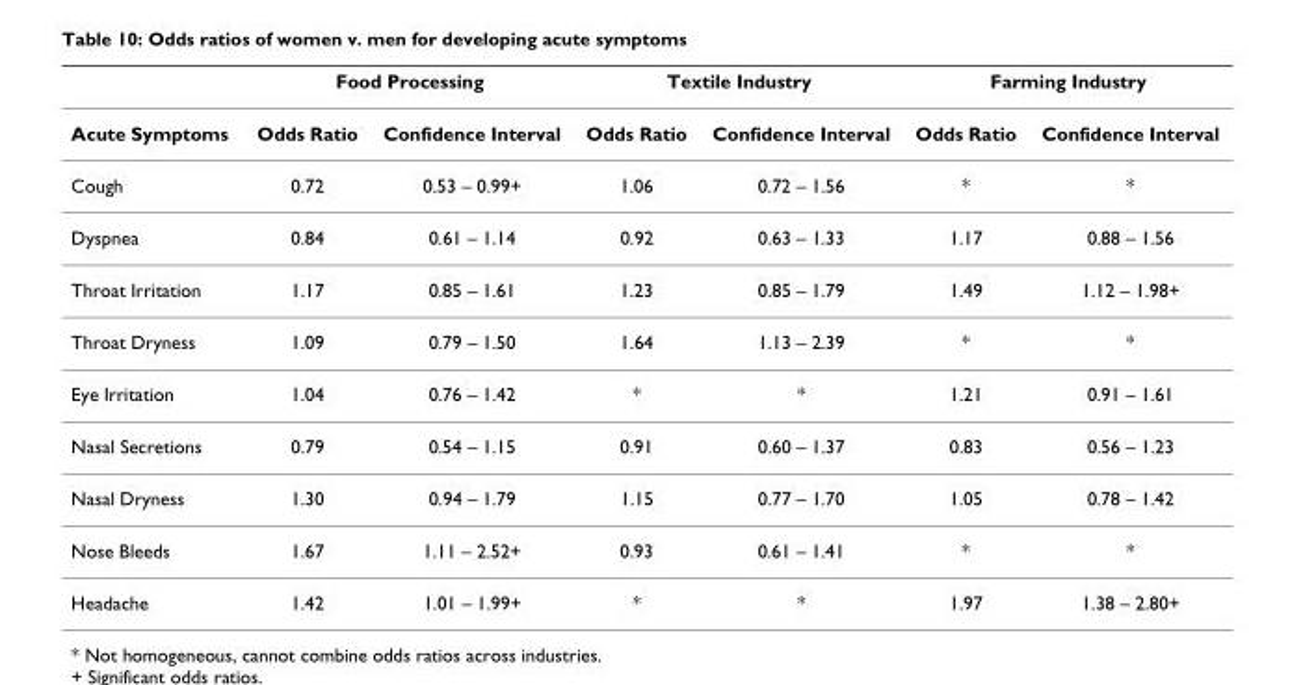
<table><thead><tr><td rowspan="2">Acute Symptoms</td><td colspan="2">Food Processing</td><td colspan="2">Textile Industry</td><td colspan="2">Farming Industry</td></tr><tr><td>Odds Ratio</td><td>Confidence Interval</td><td>Odds Ratio</td><td>Confidence Interval</td><td>Odds Ratio</td><td>Confidence Interval</td></tr></thead><tbody><tr><td>Cough</td><td>0.72</td><td>0.53 – 0.99+</td><td>1.06</td><td>0.72 – 1.56</td><td>*</td><td>*</td></tr><tr><td>Dyspnea</td><td>0.84</td><td>0.61 – 1.14</td><td>0.92</td><td>0.63 – 1.33</td><td>1.17</td><td>0.88 – 1.56</td></tr><tr><td>Throat Irritation</td><td>1.17</td><td>0.85 – 1.61</td><td>1.23</td><td>0.85 – 1.79</td><td>1.49</td><td>1.12 – 1.98+</td></tr><tr><td>Throat Dryness</td><td>1.09</td><td>0.79 – 1.50</td><td>1.64</td><td>1.13 – 2.39</td><td>*</td><td>*</td></tr><tr><td>Eye Irritation</td><td>1.04</td><td>0.76 – 1.42</td><td>*</td><td>*</td><td>1.21</td><td>0.91 – 1.61</td></tr><tr><td>Nasal Secretions</td><td>0.79</td><td>0.54 – 1.15</td><td>0.91</td><td>0.60 – 1.37</td><td>0.83</td><td>0.56 – 1.23</td></tr><tr><td>Nasal Dryness</td><td>1.30</td><td>0.94 – 1.79</td><td>1.15</td><td>0.77 – 1.70</td><td>1.05</td><td>0.78 – 1.42</td></tr><tr><td>Nose Bleeds</td><td>1.67</td><td>1.11 – 2.52+</td><td>0.93</td><td>0.61 – 1.41</td><td>*</td><td>*</td></tr><tr><td>Headache</td><td>1.42</td><td>1.01 – 1.99+</td><td>*</td><td>*</td><td>1.97</td><td>1.38 – 2.80+</td></tr></tbody></table>